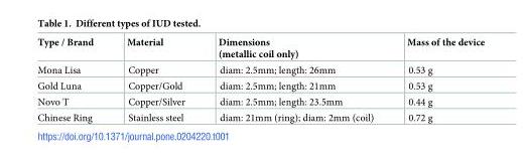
<table><thead><tr><td>Type / Brand</td><td>Material</td><td>Dimensions (metallic coil only)</td><td>Mass of the device</td></tr></thead><tbody><tr><td>Mona Lisa</td><td>Copper</td><td>diam: 2.5mm; length: 26mm</td><td>0.53 g</td></tr><tr><td>Gold Luna</td><td>Copper/Gold</td><td>diam: 2.5mm; length: 21mm</td><td>0.53 g</td></tr><tr><td>Novo T</td><td>Copper/Silver</td><td>diam: 2.5mm; length: 23.5mm</td><td>0.44 g</td></tr><tr><td>Chinese Ring</td><td>Stainless steel</td><td>diam: 21mm (ring); diam: 2mm (coil)</td><td>0.72 g</td></tr></tbody></table>